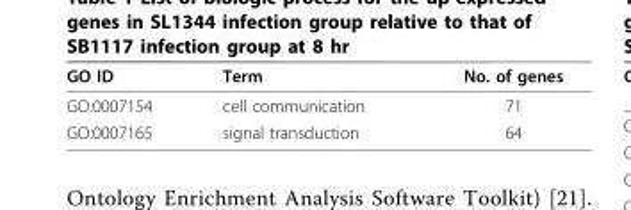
<table><thead><tr><td>GO ID</td><td>Term</td><td>No. of genes</td></tr></thead><tbody><tr><td>GO:0007154</td><td>cell communication</td><td>71</td></tr><tr><td>GO:0007165</td><td>signal transduction</td><td>64</td></tr></tbody></table>